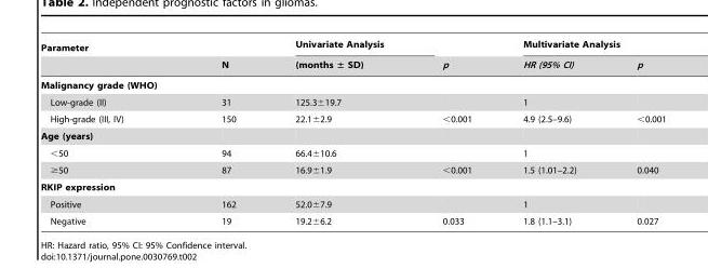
<table><thead><tr><td rowspan="2">Parameter</td><td rowspan="2">N</td><td rowspan="2">Univariate Analysis (months ± SD)</td><td rowspan="2">p</td><td colspan="2">Multivariate Analysis</td></tr><tr><td>HR (95% CI)</td><td>p</td></tr></thead><tbody><tr><td colspan="6">Malignancy grade (WHO)</td></tr><tr><td>Low-grade (II)</td><td>31</td><td>125.3±19.7</td><td></td><td>1</td><td></td></tr><tr><td>High-grade (III, IV)</td><td>150</td><td>22.1±2.9</td><td>&lt;0.001</td><td>4.9 (2.5–9.6)</td><td>&lt;0.001</td></tr><tr><td colspan="6">Age (years)</td></tr><tr><td>&lt;50</td><td>94</td><td>66.4±10.6</td><td></td><td>1</td><td></td></tr><tr><td>≥50</td><td>87</td><td>16.9±1.9</td><td>&lt;0.001</td><td>1.5 (1.01–2.2)</td><td>0.040</td></tr><tr><td colspan="6">RKIP expression</td></tr><tr><td>Positive</td><td>162</td><td>52.0±7.9</td><td></td><td>1</td><td></td></tr><tr><td>Negative</td><td>19</td><td>19.2±6.2</td><td>0.033</td><td>1.8 (1.1–3.1)</td><td>0.027</td></tr></tbody></table>